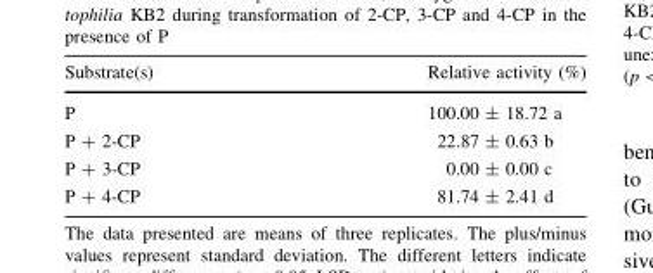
<table><thead><tr><td>Substrate(s)</td><td>Relative activity (%)</td></tr></thead><tbody><tr><td>P</td><td>100.00 ± 18.72 a</td></tr><tr><td>P + 2-CP</td><td>22.87 ± 0.63 b</td></tr><tr><td>P + 3-CP</td><td>0.00 ± 0.00 c</td></tr><tr><td>P + 4-CP</td><td>81.74 ± 2.41 d</td></tr></tbody></table>